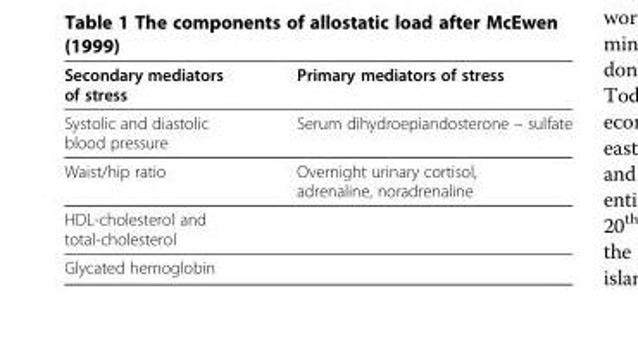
<table><thead><tr><td>Secondary mediators of stress</td><td>Primary mediators of stress</td></tr></thead><tbody><tr><td>Systolic and diastolic blood pressure</td><td>Serum dihydroepiandosterone – sulfate</td></tr><tr><td>Waist/hip ratio</td><td>Overnight urinary cortisol, adrenaline, noradrenaline</td></tr><tr><td colspan="2">HDL-cholesterol and total-cholesterol</td></tr><tr><td>Glycated hemoglobin</td><td></td></tr></tbody></table>